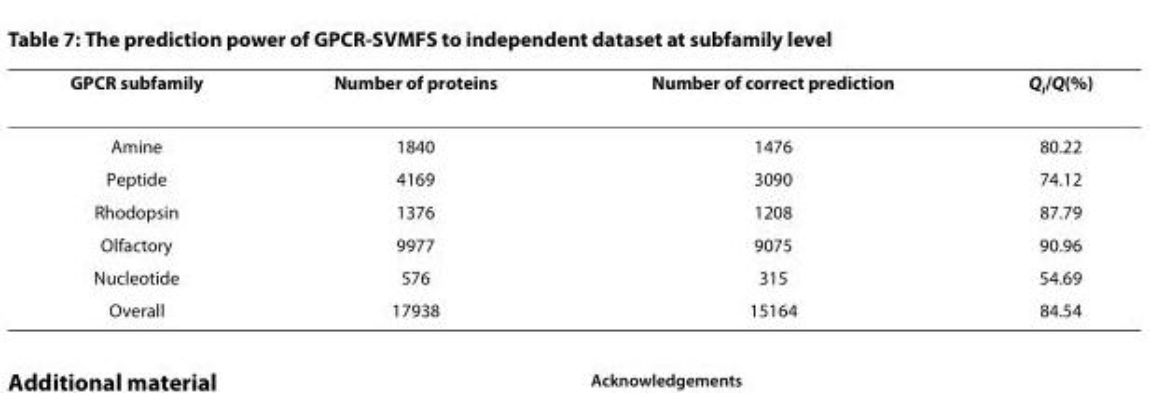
<table><thead><tr><td>GPCR subfamily</td><td>Number of proteins</td><td>Number of correct prediction</td><td>Q<sub>i</sub>/Q(%)</td></tr></thead><tbody><tr><td>Amine</td><td>1840</td><td>1476</td><td>80.22</td></tr><tr><td>Peptide</td><td>4169</td><td>3090</td><td>74.12</td></tr><tr><td>Rhodopsin</td><td>1376</td><td>1208</td><td>87.79</td></tr><tr><td>Olfactory</td><td>9977</td><td>9075</td><td>90.96</td></tr><tr><td>Nucleotide</td><td>576</td><td>315</td><td>54.69</td></tr><tr><td>Overall</td><td>17938</td><td>15164</td><td>84.54</td></tr></tbody></table>